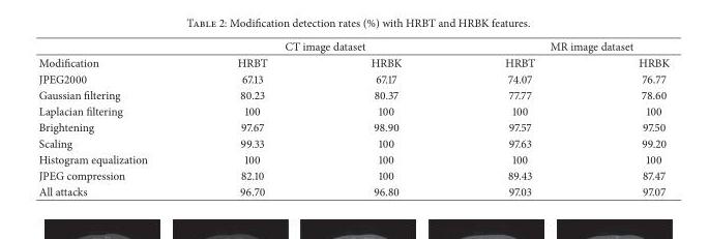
<table><thead><tr><td rowspan="2">Modification</td><td colspan="2">CT image dataset</td><td colspan="2">MR image dataset</td></tr><tr><td>HRBT</td><td>HRBK</td><td>HRBT</td><td>HRBK</td></tr></thead><tbody><tr><td>JPEG2000</td><td>67.13</td><td>67.17</td><td>74.07</td><td>76.77</td></tr><tr><td>Gaussian filtering</td><td>80.23</td><td>80.37</td><td>77.77</td><td>78.60</td></tr><tr><td>Laplacian filtering</td><td>100</td><td>100</td><td>100</td><td>100</td></tr><tr><td>Brightening</td><td>97.67</td><td>98.90</td><td>97.57</td><td>97.50</td></tr><tr><td>Scaling</td><td>99.33</td><td>100</td><td>97.63</td><td>99.20</td></tr><tr><td>Histogram equalization</td><td>100</td><td>100</td><td>100</td><td>100</td></tr><tr><td>JPEG compression</td><td>82.10</td><td>100</td><td>89.43</td><td>87.47</td></tr><tr><td>All attacks</td><td>96.70</td><td>96.80</td><td>97.03</td><td>97.07</td></tr></tbody></table>